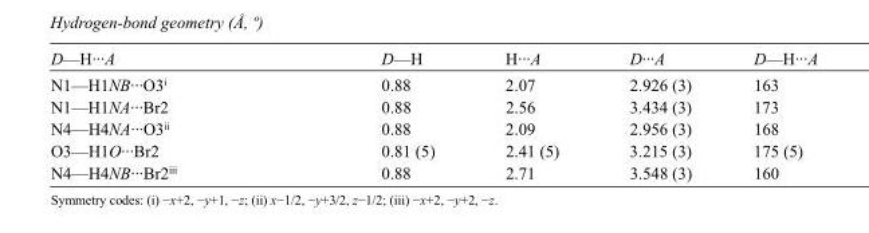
<table><tbody><tr><td>D—H···A</td><td>D—H</td><td>H···A</td><td>D···A</td><td>D—H···A</td></tr><tr><td>N1—H1NB···O3<sup>i</sup></td><td>0.88</td><td>2.07</td><td>2.926 (3)</td><td>163</td></tr><tr><td>N1—H1NA···Br2</td><td>0.88</td><td>2.56</td><td>3.434 (3)</td><td>173</td></tr><tr><td>N4—H4NA···O3<sup>ii</sup></td><td>0.88</td><td>2.09</td><td>2.956 (3)</td><td>168</td></tr><tr><td>O3—H1O···Br2</td><td>0.81 (5)</td><td>2.41 (5)</td><td>3.215 (3)</td><td>175 (5)</td></tr><tr><td>N4—H4NB···Br2<sup>iii</sup></td><td>0.88</td><td>2.71</td><td>3.548 (3)</td><td>160</td></tr></tbody></table>